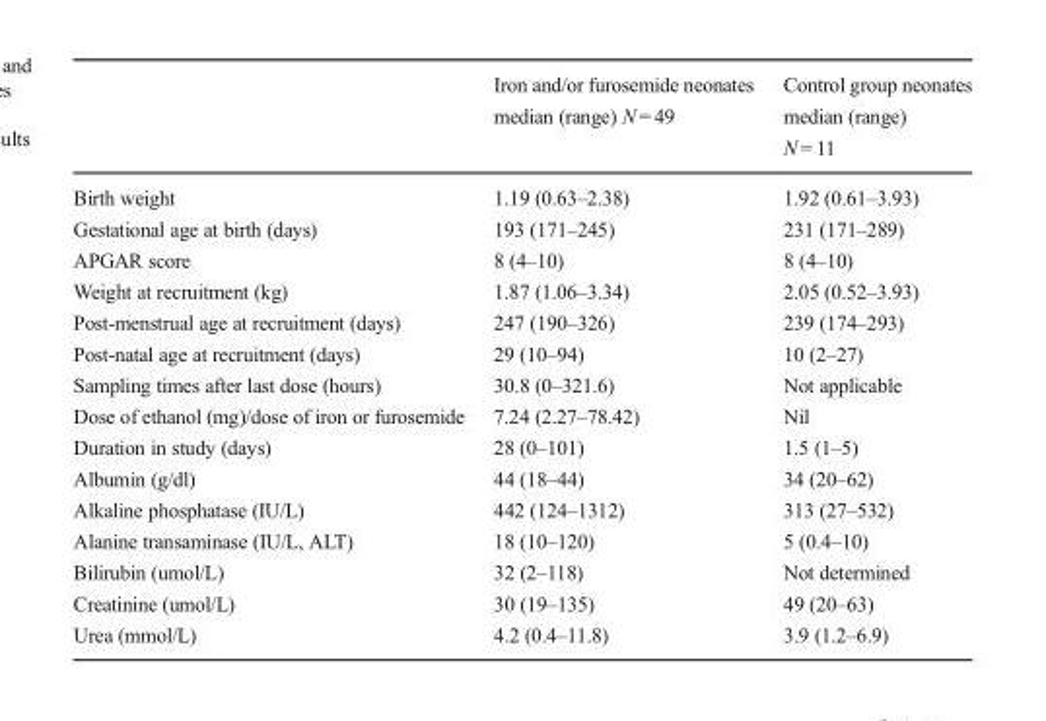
<table><thead><tr><td></td><td>Iron and/or furosemide neonates median (range) N = 49</td><td>Control group neonates median (range) N = 11</td></tr></thead><tbody><tr><td>Birth weight</td><td>1.19 (0.63–2.38)</td><td>1.92 (0.61–3.93)</td></tr><tr><td>Gestational age at birth (days)</td><td>193 (171–245)</td><td>231 (171–289)</td></tr><tr><td>APGAR score</td><td>8 (4–10)</td><td>8 (4–10)</td></tr><tr><td>Weight at recruitment (kg)</td><td>1.87 (1.06–3.34)</td><td>2.05 (0.52–3.93)</td></tr><tr><td>Post-menstrual age at recruitment (days)</td><td>247 (190–326)</td><td>239 (174–293)</td></tr><tr><td>Post-natal age at recruitment (days)</td><td>29 (10–94)</td><td>10 (2–27)</td></tr><tr><td>Sampling times after last dose (hours)</td><td>30.8 (0–321.6)</td><td>Not applicable</td></tr><tr><td>Dose of ethanol (mg)/dose of iron or furosemide</td><td>7.24 (2.27–78.42)</td><td>Nil</td></tr><tr><td>Duration in study (days)</td><td>28 (0–101)</td><td>1.5 (1–5)</td></tr><tr><td>Albumin (g/dl)</td><td>44 (18–44)</td><td>34 (20–62)</td></tr><tr><td>Alkaline phosphatase (IU/L)</td><td>442 (124–1312)</td><td>313 (27–532)</td></tr><tr><td>Alanine transaminase (IU/L, ALT)</td><td>18 (10–120)</td><td>5 (0.4–10)</td></tr><tr><td>Bilirubin (umol/L)</td><td>32 (2–118)</td><td>Not determined</td></tr><tr><td>Creatinine (umol/L)</td><td>30 (19–135)</td><td>49 (20–63)</td></tr><tr><td>Urea (mmol/L)</td><td>4.2 (0.4–11.8)</td><td>3.9 (1.2–6.9)</td></tr></tbody></table>